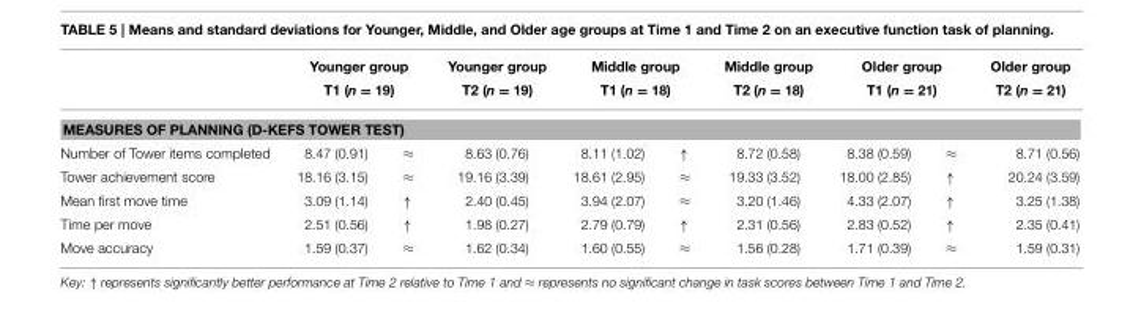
<table><thead><tr><td rowspan="2"></td><td rowspan="2" colspan="2">Younger group T1 (n = 19)</td><td rowspan="2">Younger group T2 (n = 19)</td><td rowspan="2" colspan="2">Middle group T1 (n = 18)</td><td rowspan="2">Middle group T2 (n = 18)</td><td rowspan="2" colspan="2">Older group T1 (n = 21)</td><td rowspan="2">Older group T2 (n = 21)</td></tr><tr></tr><tr><td colspan="10">MEASURES OF PLANNING (D-KEFS TOWER TEST)</td></tr><tr><td>Number of Tower items completed</td><td>8.47 (0.91)</td><td>≈</td><td>8.63 (0.76)</td><td>8.11 (1.02)</td><td>↑</td><td>8.72 (0.58)</td><td>8.38 (0.59)</td><td>≈</td><td>8.71 (0.56)</td></tr></thead><tbody><tr><td>Tower achievement score</td><td>18.16 (3.15)</td><td>≈</td><td>19.16 (3.39)</td><td>18.61 (2.95)</td><td>≈</td><td>19.33 (3.52)</td><td>18.00 (2.85)</td><td>↑</td><td>20.24 (3.59)</td></tr><tr><td>Mean first move time</td><td>3.09 (1.14)</td><td>↑</td><td>2.40 (0.45)</td><td>3.94 (2.07)</td><td>≈</td><td>3.20 (1.46)</td><td>4.33 (2.07)</td><td>↑</td><td>3.25 (1.38)</td></tr><tr><td>Time per move</td><td>2.51 (0.56)</td><td>↑</td><td>1.98 (0.27)</td><td>2.79 (0.79)</td><td>↑</td><td>2.31 (0.56)</td><td>2.83 (0.52)</td><td>↑</td><td>2.35 (0.41)</td></tr><tr><td>Move accuracy</td><td>1.59 (0.37)</td><td>≈</td><td>1.62 (0.34)</td><td>1.60 (0.55)</td><td>≈</td><td>1.56 (0.28)</td><td>1.71 (0.39)</td><td>≈</td><td>1.59 (0.31)</td></tr></tbody></table>